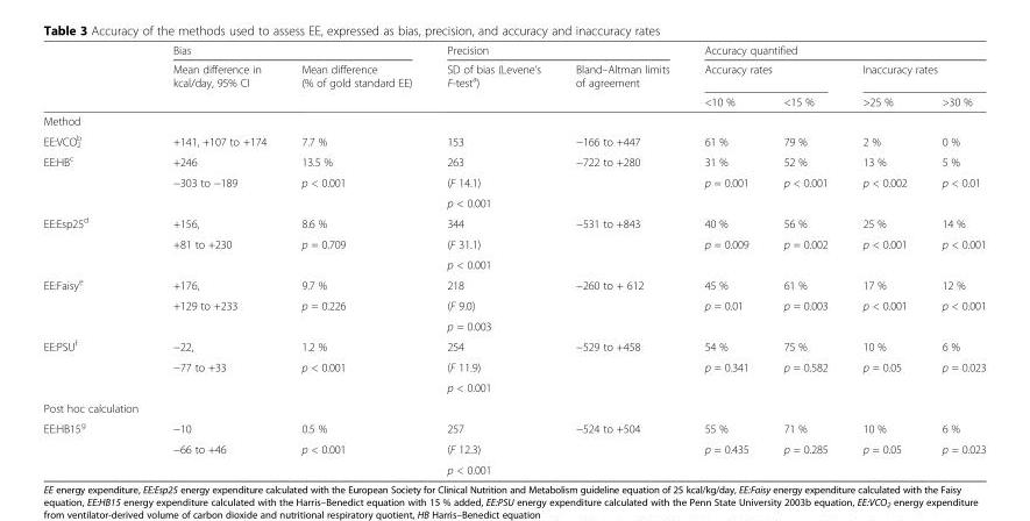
<table><thead><tr><td rowspan="3"></td><td colspan="2">Bias</td><td colspan="2">Precision</td><td colspan="4">Accuracy quantified</td></tr><tr><td rowspan="2">Mean difference in kcal/day, 95% CI</td><td rowspan="2">Mean difference (% of gold standard EE)</td><td rowspan="2">SD of bias (Levene’s F-test<sup>a</sup>)</td><td rowspan="2">Bland–Altman limits of agreement</td><td colspan="2">Accuracy rates</td><td colspan="2">Inaccuracy rates</td></tr><tr><td>&lt;10 %</td><td>&lt;15 %</td><td>&gt;25 %</td><td>&gt;30 %</td></tr></thead><tbody><tr><td colspan="9">Method</td></tr><tr><td>EE:VCO<sub>2</sub> <sup>b</sup></td><td>+141, +107 to +174</td><td>7.7 %</td><td>153</td><td>−166 to +447</td><td>61 %</td><td>79 %</td><td>2 %</td><td>0 %</td></tr><tr><td rowspan="3">EE:HB<sup>c</sup></td><td>+246</td><td>13.5 %</td><td>263</td><td>−722 to +280</td><td>31 %</td><td>52 %</td><td>13 %</td><td>5 %</td></tr><tr><td rowspan="2">−303 to −189</td><td rowspan="2">p &lt; 0.001</td><td>(F 14.1)</td><td rowspan="2"></td><td rowspan="2">p = 0.001</td><td rowspan="2">p &lt; 0.001</td><td rowspan="2">p &lt; 0.002</td><td rowspan="2">p &lt; 0.01</td></tr><tr><td>p &lt; 0.001</td></tr><tr><td rowspan="3">EE:Esp25<sup>d</sup></td><td>+156,</td><td>8.6 %</td><td>344</td><td>−531 to +843</td><td>40 %</td><td>56 %</td><td>25 %</td><td>14 %</td></tr><tr><td rowspan="2">+81 to +230</td><td rowspan="2">p = 0.709</td><td>(F 31.1)</td><td rowspan="2"></td><td rowspan="2">p = 0.009</td><td rowspan="2">p = 0.002</td><td rowspan="2">p &lt; 0.001</td><td rowspan="2">p &lt; 0.001</td></tr><tr><td>p &lt; 0.001</td></tr><tr><td rowspan="3">EE:Faisy<sup>e</sup></td><td>+176,</td><td>9.7 %</td><td>218</td><td>−260 to + 612</td><td>45 %</td><td>61 %</td><td>17 %</td><td>12 %</td></tr><tr><td rowspan="2">+129 to +233</td><td rowspan="2">p = 0.226</td><td>(F 9.0)</td><td rowspan="2"></td><td rowspan="2">p = 0.01</td><td rowspan="2">p = 0.003</td><td rowspan="2">p &lt; 0.001</td><td rowspan="2">p &lt; 0.001</td></tr><tr><td>p = 0.003</td></tr><tr><td rowspan="3">EE:PSU<sup>f</sup></td><td>−22,</td><td>1.2 %</td><td>254</td><td>−529 to +458</td><td>54 %</td><td>75 %</td><td>10 %</td><td>6 %</td></tr><tr><td rowspan="2">−77 to +33</td><td rowspan="2">p &lt; 0.001</td><td>(F 11.9)</td><td rowspan="2"></td><td rowspan="2">p = 0.341</td><td rowspan="2">p = 0.582</td><td rowspan="2">p = 0.05</td><td rowspan="2">p = 0.023</td></tr><tr><td>p &lt; 0.001</td></tr><tr><td colspan="9">Post hoc calculation</td></tr><tr><td rowspan="3">EE:HB15<sup>g</sup></td><td>−10</td><td>0.5 %</td><td>257</td><td>−524 to +504</td><td>55 %</td><td>71 %</td><td>10 %</td><td>6 %</td></tr><tr><td rowspan="2">−66 to +46</td><td rowspan="2">p &lt; 0.001</td><td>(F 12.3)</td><td rowspan="2"></td><td rowspan="2">p = 0.435</td><td rowspan="2">p = 0.285</td><td rowspan="2">p = 0.05</td><td rowspan="2">p = 0.023</td></tr><tr><td>p &lt; 0.001</td></tr></tbody></table>